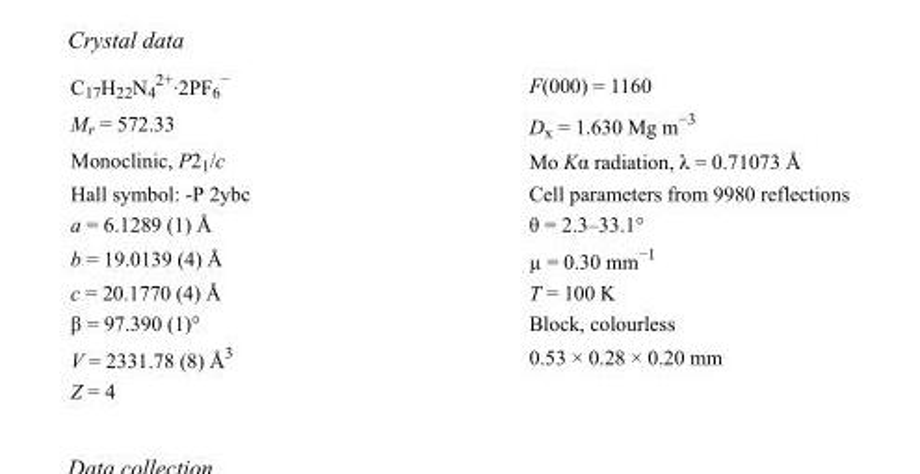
<table><tbody><tr><td>C<sub>17</sub>H<sub>22</sub>N<sub>4</sub> <sup>2+</sup>·2PF<sub>6</sub> <sup>−</sup></td><td>F(000) = 1160</td></tr><tr><td>M<sub>r</sub> = 572.33</td><td>D<sub>x</sub> = 1.630 Mg m<sup>−3</sup></td></tr><tr><td>Monoclinic, P2<sub>1</sub>/c</td><td>Mo Kα radiation, λ = 0.71073 Å</td></tr><tr><td>Hall symbol: -P 2ybc</td><td>Cell parameters from 9980 reflections</td></tr><tr><td>a = 6.1289 (1) Å</td><td>θ = 2.3–33.1°</td></tr><tr><td>b = 19.0139 (4) Å</td><td>µ = 0.30 mm<sup>−1</sup></td></tr><tr><td>c = 20.1770 (4) Å</td><td>T = 100 K</td></tr><tr><td>β = 97.390 (1)°</td><td>Block, colourless</td></tr><tr><td>V = 2331.78 (8) Å<sup>3</sup></td><td>0.53 × 0.28 × 0.20 mm</td></tr><tr><td>Z = 4</td><td></td></tr></tbody></table>